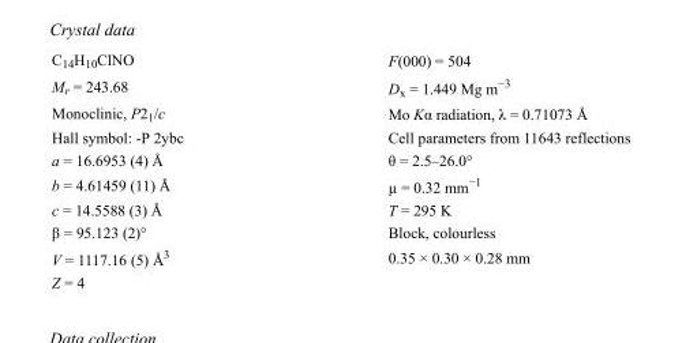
<table><tbody><tr><td>C<sub>14</sub>H<sub>10</sub>ClNO</td><td>F(000) = 504</td></tr><tr><td>M<sub>r</sub> = 243.68</td><td>D<sub>x</sub> = 1.449 Mg m<sup>−3</sup></td></tr><tr><td>Monoclinic, P2<sub>1</sub>/c</td><td>Mo Kα radiation, λ = 0.71073 Å</td></tr><tr><td>Hall symbol: -P 2ybc</td><td>Cell parameters from 11643 reflections</td></tr><tr><td>a = 16.6953 (4) Å</td><td>θ = 2.5–26.0°</td></tr><tr><td>b = 4.61459 (11) Å</td><td>µ = 0.32 mm<sup>−1</sup></td></tr><tr><td>c = 14.5588 (3) Å</td><td>T = 295 K</td></tr><tr><td>β = 95.123 (2)°</td><td>Block, colourless</td></tr><tr><td>V = 1117.16 (5) Å<sup>3</sup></td><td>0.35 × 0.30 × 0.28 mm</td></tr><tr><td>Z = 4</td><td></td></tr></tbody></table>